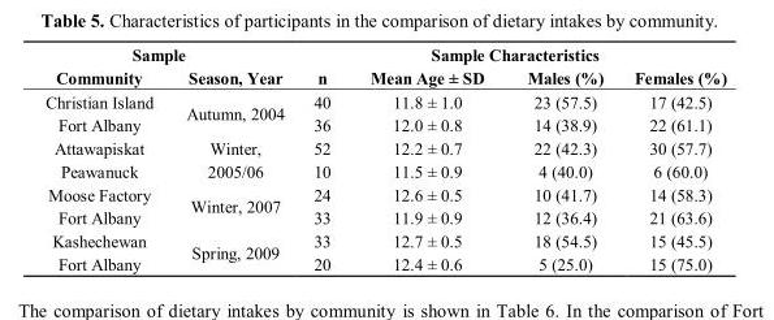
<table><thead><tr><td colspan="2">Sample</td><td colspan="4">Sample Characteristics</td></tr><tr><td>Community</td><td>Season, Year</td><td>n</td><td>Mean Age ± SD</td><td>Males (%)</td><td>Females (%)</td></tr></thead><tbody><tr><td>Christian Island</td><td rowspan="2">Autumn, 2004</td><td>40</td><td>11.8 ± 1.0</td><td>23 (57.5)</td><td>17 (42.5)</td></tr><tr><td>Fort Albany</td><td>36</td><td>12.0 ± 0.8</td><td>14 (38.9)</td><td>22 (61.1)</td></tr><tr><td>Attawapiskat</td><td rowspan="2">Winter, 2005/06</td><td>52</td><td>12.2 ± 0.7</td><td>22 (42.3)</td><td>30 (57.7)</td></tr><tr><td>Peawanuck</td><td>10</td><td>11.5 ± 0.9</td><td>4 (40.0)</td><td>6 (60.0)</td></tr><tr><td>Moose Factory</td><td rowspan="2">Winter, 2007</td><td>24</td><td>12.6 ± 0.5</td><td>10 (41.7)</td><td>14 (58.3)</td></tr><tr><td>Fort Albany</td><td>33</td><td>11.9 ± 0.9</td><td>12 (36.4)</td><td>21 (63.6)</td></tr><tr><td>Kashechewan</td><td rowspan="2">Spring, 2009</td><td>33</td><td>12.7 ± 0.5</td><td>18 (54.5)</td><td>15 (45.5)</td></tr><tr><td>Fort Albany</td><td>20</td><td>12.4 ± 0.6</td><td>5 (25.0)</td><td>15 (75.0)</td></tr></tbody></table>